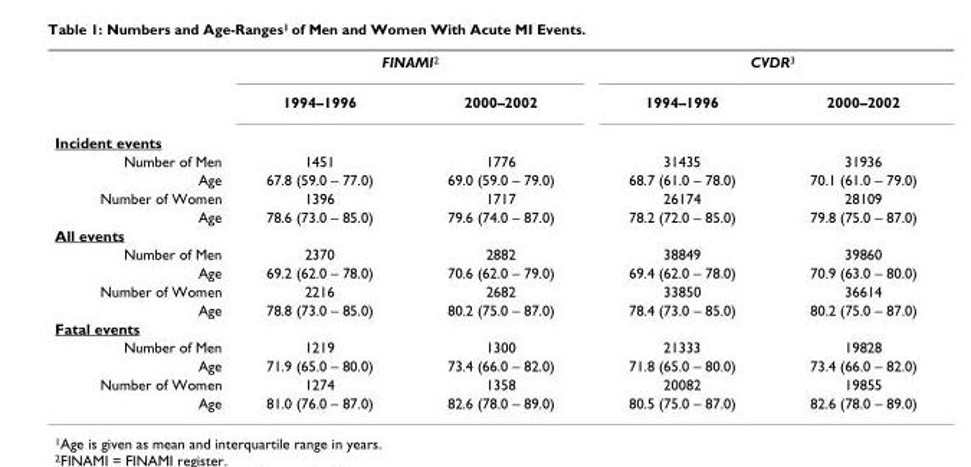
<table><thead><tr><td rowspan="2"></td><td colspan="2">FINAMI<sup>2</sup></td><td colspan="2">CVDR<sup>3</sup></td></tr><tr><td>1994–1996</td><td>2000–2002</td><td>1994–1996</td><td>2000–2002</td></tr></thead><tbody><tr><td colspan="5">Incident events</td></tr><tr><td>Number of Men</td><td>1451</td><td>1776</td><td>31435</td><td>31936</td></tr><tr><td>Age</td><td>67.8 (59.0 – 77.0)</td><td>69.0 (59.0 – 79.0)</td><td>68.7 (61.0 – 78.0)</td><td>70.1 (61.0 – 79.0)</td></tr><tr><td>Number of Women</td><td>1396</td><td>1717</td><td>26174</td><td>28109</td></tr><tr><td>Age</td><td>78.6 (73.0 – 85.0)</td><td>79.6 (74.0 – 87.0)</td><td>78.2 (72.0 – 85.0)</td><td>79.8 (75.0 – 87.0)</td></tr><tr><td colspan="5">All events</td></tr><tr><td>Number of Men</td><td>2370</td><td>2882</td><td>38849</td><td>39860</td></tr><tr><td>Age</td><td>69.2 (62.0 – 78.0)</td><td>70.6 (62.0 – 79.0)</td><td>69.4 (62.0 – 78.0)</td><td>70.9 (63.0 – 80.0)</td></tr><tr><td>Number of Women</td><td>2216</td><td>2682</td><td>33850</td><td>36614</td></tr><tr><td>Age</td><td>78.8 (73.0 – 85.0)</td><td>80.2 (75.0 – 87.0)</td><td>78.4 (73.0 – 85.0)</td><td>80.2 (75.0 – 87.0)</td></tr><tr><td colspan="5">Fatal events</td></tr><tr><td>Number of Men</td><td>1219</td><td>1300</td><td>21333</td><td>19828</td></tr><tr><td>Age</td><td>71.9 (65.0 – 80.0)</td><td>73.4 (66.0 – 82.0)</td><td>71.8 (65.0 – 80.0)</td><td>73.4 (66.0 – 82.0)</td></tr><tr><td>Number of Women</td><td>1274</td><td>1358</td><td>20082</td><td>19855</td></tr><tr><td>Age</td><td>81.0 (76.0 – 87.0)</td><td>82.6 (78.0 – 89.0)</td><td>80.5 (75.0 – 87.0)</td><td>82.6 (78.0 – 89.0)</td></tr></tbody></table>